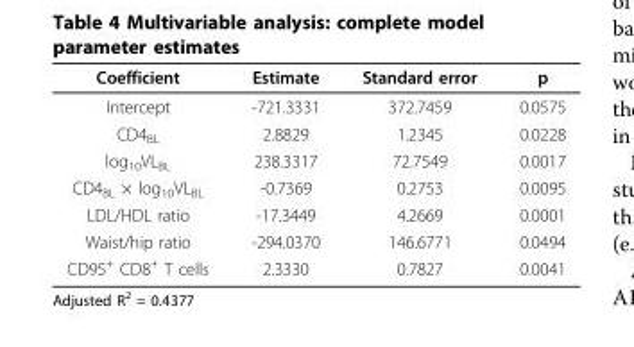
<table><thead><tr><td>Coefficient</td><td>Estimate</td><td>Standard error</td><td>p</td></tr></thead><tbody><tr><td>Intercept</td><td>-721.3331</td><td>372.7459</td><td>0.0575</td></tr><tr><td>CD4<sub>BL</sub></td><td>2.8829</td><td>1.2345</td><td>0.0228</td></tr><tr><td>log<sub>10</sub>VL<sub>BL</sub></td><td>238.3317</td><td>72.7549</td><td>0.0017</td></tr><tr><td>CD4<sub>BL</sub> × log<sub>10</sub>VL<sub>BL</sub></td><td>-0.7369</td><td>0.2753</td><td>0.0095</td></tr><tr><td>LDL/HDL ratio</td><td>-17.3449</td><td>4.2669</td><td>0.0001</td></tr><tr><td>Waist/hip ratio</td><td>-294.0370</td><td>146.6771</td><td>0.0494</td></tr><tr><td>CD95<sup>+</sup> CD8<sup>+</sup> T cells</td><td>2.3330</td><td>0.7827</td><td>0.0041</td></tr></tbody></table>